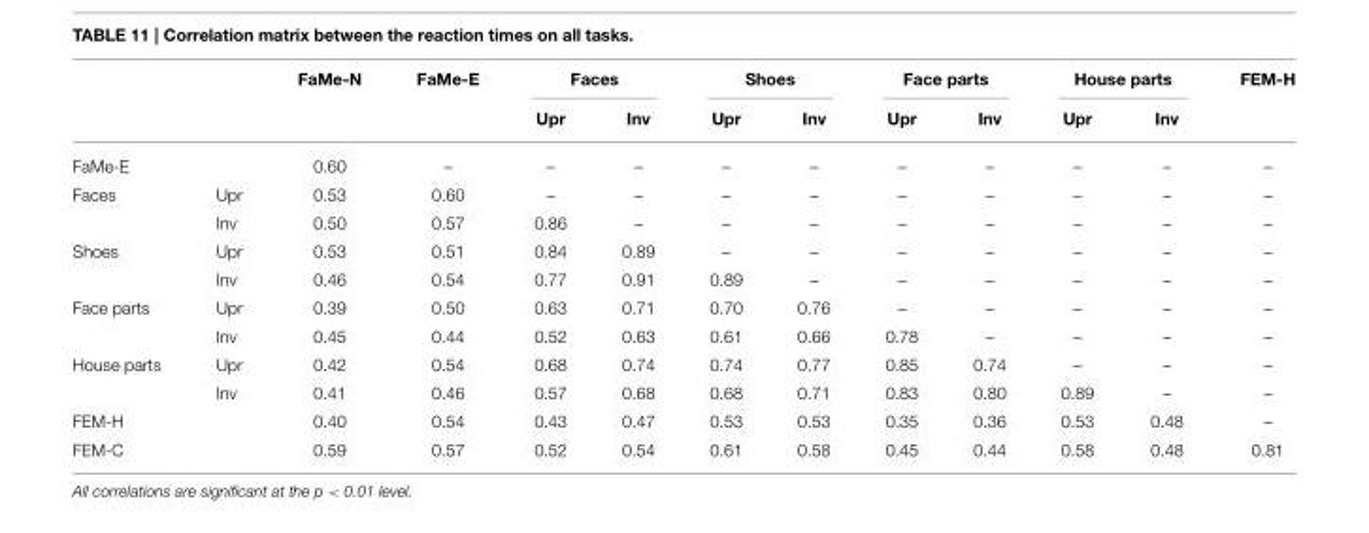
<table><thead><tr><td rowspan="2"></td><td rowspan="2"></td><td rowspan="2">FaMe-N</td><td rowspan="2">FaMe-E</td><td colspan="2">Faces</td><td colspan="2">Shoes</td><td colspan="2">Face parts</td><td colspan="2">House parts</td><td rowspan="2">FEM-H</td></tr><tr><td>Upr</td><td>Inv</td><td>Upr</td><td>Inv</td><td>Upr</td><td>Inv</td><td>Upr</td><td>Inv</td></tr></thead><tbody><tr><td>FaMe-E</td><td></td><td>0.60</td><td>–</td><td>–</td><td>–</td><td>–</td><td>–</td><td>–</td><td>–</td><td>–</td><td>–</td><td>–</td></tr><tr><td rowspan="2">Faces</td><td>Upr</td><td>0.53</td><td>0.60</td><td>–</td><td>–</td><td>–</td><td>–</td><td>–</td><td>–</td><td>–</td><td>–</td><td>–</td></tr><tr><td>Inv</td><td>0.50</td><td>0.57</td><td>0.86</td><td>–</td><td>–</td><td>–</td><td>–</td><td>–</td><td>–</td><td>–</td><td>–</td></tr><tr><td rowspan="2">Shoes</td><td>Upr</td><td>0.53</td><td>0.51</td><td>0.84</td><td>0.89</td><td>–</td><td>–</td><td>–</td><td>–</td><td>–</td><td>–</td><td>–</td></tr><tr><td>Inv</td><td>0.46</td><td>0.54</td><td>0.77</td><td>0.91</td><td>0.89</td><td>–</td><td>–</td><td>–</td><td>–</td><td>–</td><td>–</td></tr><tr><td rowspan="2">Face parts</td><td>Upr</td><td>0.39</td><td>0.50</td><td>0.63</td><td>0.71</td><td>0.70</td><td>0.76</td><td>–</td><td>–</td><td>–</td><td>–</td><td>–</td></tr><tr><td>Inv</td><td>0.45</td><td>0.44</td><td>0.52</td><td>0.63</td><td>0.61</td><td>0.66</td><td>0.78</td><td>–</td><td>–</td><td>–</td><td>–</td></tr><tr><td rowspan="2">House parts</td><td>Upr</td><td>0.42</td><td>0.54</td><td>0.68</td><td>0.74</td><td>0.74</td><td>0.77</td><td>0.85</td><td>0.74</td><td>–</td><td>–</td><td>–</td></tr><tr><td>Inv</td><td>0.41</td><td>0.46</td><td>0.57</td><td>0.68</td><td>0.68</td><td>0.71</td><td>0.83</td><td>0.80</td><td>0.89</td><td>–</td><td>–</td></tr><tr><td>FEM-H</td><td></td><td>0.40</td><td>0.54</td><td>0.43</td><td>0.47</td><td>0.53</td><td>0.53</td><td>0.35</td><td>0.36</td><td>0.53</td><td>0.48</td><td>–</td></tr><tr><td>FEM-C</td><td></td><td>0.59</td><td>0.57</td><td>0.52</td><td>0.54</td><td>0.61</td><td>0.58</td><td>0.45</td><td>0.44</td><td>0.58</td><td>0.48</td><td>0.81</td></tr></tbody></table>